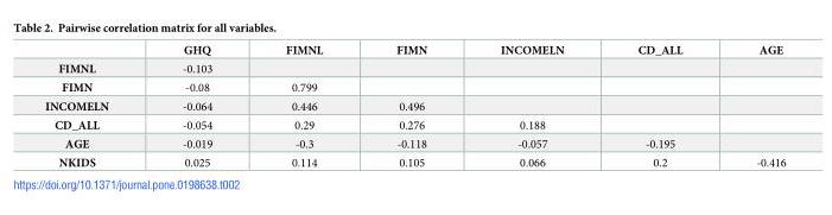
<table><thead><tr><td></td><td>GHQ</td><td>FIMNL</td><td>FIMN</td><td>INCOMELN</td><td>CD_ALL</td><td>AGE</td></tr></thead><tbody><tr><td>FIMNL</td><td>-0.103</td><td></td><td></td><td></td><td></td><td></td></tr><tr><td>FIMN</td><td>-0.08</td><td>0.799</td><td></td><td></td><td></td><td></td></tr><tr><td>INCOMELN</td><td>-0.064</td><td>0.446</td><td>0.496</td><td></td><td></td><td></td></tr><tr><td>CD_ALL</td><td>-0.054</td><td>0.29</td><td>0.276</td><td>0.188</td><td></td><td></td></tr><tr><td>AGE</td><td>-0.019</td><td>-0.3</td><td>-0.118</td><td>-0.057</td><td>-0.195</td><td></td></tr><tr><td>NKIDS</td><td>0.025</td><td>0.114</td><td>0.105</td><td>0.066</td><td>0.2</td><td>-0.416</td></tr></tbody></table>